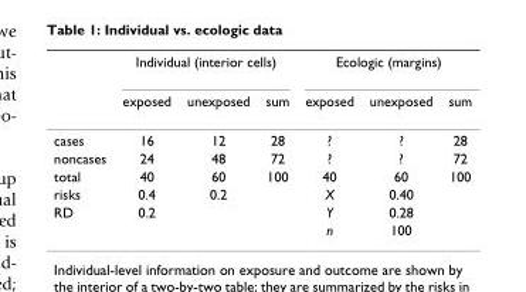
<table><thead><tr><td rowspan="2"></td><td colspan="3">Individual (interior cells)</td><td colspan="3">Ecologic (margins)</td></tr><tr><td>exposed</td><td>unexposed</td><td>sum</td><td>exposed</td><td>unexposed</td><td>sum</td></tr></thead><tbody><tr><td>cases</td><td>16</td><td>12</td><td>28</td><td>?</td><td>?</td><td>28</td></tr><tr><td>noncases</td><td>24</td><td>48</td><td>72</td><td>?</td><td>?</td><td>72</td></tr><tr><td>total</td><td>40</td><td>60</td><td>100</td><td>40</td><td>60</td><td>100</td></tr><tr><td>risks</td><td>0.4</td><td>0.2</td><td></td><td>X</td><td>0.40</td><td></td></tr><tr><td rowspan="2">RD</td><td>0.2</td><td></td><td></td><td>Y</td><td>0.28</td><td></td></tr><tr><td></td><td></td><td></td><td>n</td><td>100</td><td></td></tr></tbody></table>